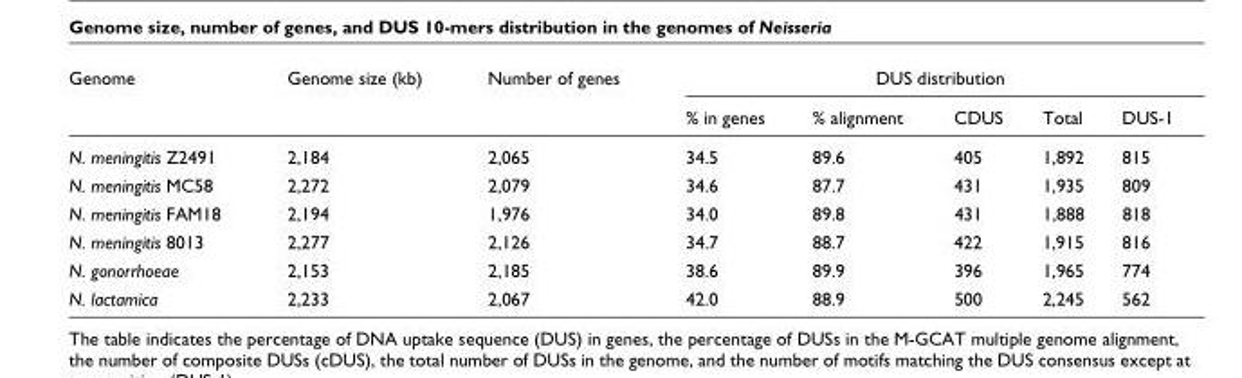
<table><thead><tr><td rowspan="2">Genome</td><td rowspan="2">Genome size (kb)</td><td rowspan="2">Number of genes</td><td colspan="5">DUS distribution</td></tr><tr><td>% in genes</td><td>% alignment</td><td>CDUS</td><td>Total</td><td>DUS-1</td></tr></thead><tbody><tr><td>N. meningitis Z2491</td><td>2,184</td><td>2,065</td><td>34.5</td><td>89.6</td><td>405</td><td>1,892</td><td>815</td></tr><tr><td>N. meningitis MC58</td><td>2,272</td><td>2,079</td><td>34.6</td><td>87.7</td><td>431</td><td>1,935</td><td>809</td></tr><tr><td>N. meningitis FAM18</td><td>2,194</td><td>1,976</td><td>34.0</td><td>89.8</td><td>431</td><td>1,888</td><td>818</td></tr><tr><td>N. meningitis 8013</td><td>2,277</td><td>2,126</td><td>34.7</td><td>88.7</td><td>422</td><td>1,915</td><td>816</td></tr><tr><td>N. gonorrhoeae</td><td>2,153</td><td>2,185</td><td>38.6</td><td>89.9</td><td>396</td><td>1,965</td><td>774</td></tr><tr><td>N. lactamica</td><td>2,233</td><td>2,067</td><td>42.0</td><td>88.9</td><td>500</td><td>2,245</td><td>562</td></tr></tbody></table>